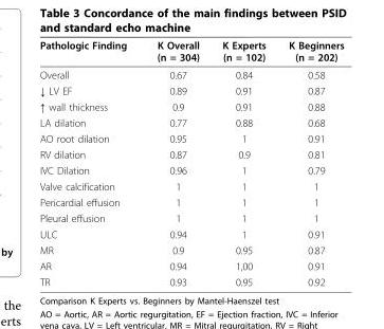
<table><thead><tr><td>Pathologic Finding</td><td>K Overall (n = 304)</td><td>K Experts (n = 102)</td><td>K Beginners (n = 202)</td></tr></thead><tbody><tr><td>Overall</td><td>0.67</td><td>0.84</td><td>0.58</td></tr><tr><td>↓ LV EF</td><td>0.89</td><td>0.91</td><td>0.87</td></tr><tr><td>↑ wall thickness</td><td>0.9</td><td>0.91</td><td>0.88</td></tr><tr><td>LA dilation</td><td>0.77</td><td>0.88</td><td>0.68</td></tr><tr><td>AO root dilation</td><td>0.95</td><td>1</td><td>0.91</td></tr><tr><td>RV dilation</td><td>0.87</td><td>0.9</td><td>0.81</td></tr><tr><td>IVC Dilation</td><td>0.96</td><td>1</td><td>0.79</td></tr><tr><td>Valve calcification</td><td>1</td><td>1</td><td>1</td></tr><tr><td>Pericardial effusion</td><td>1</td><td>1</td><td>1</td></tr><tr><td>Pleural effusion</td><td>1</td><td>1</td><td>1</td></tr><tr><td>ULC</td><td>0.94</td><td>1</td><td>0.91</td></tr><tr><td>MR</td><td>0.9</td><td>0.95</td><td>0.87</td></tr><tr><td>AR</td><td>0.94</td><td>1,00</td><td>0.91</td></tr><tr><td>TR</td><td>0.93</td><td>0.95</td><td>0.92</td></tr></tbody></table>